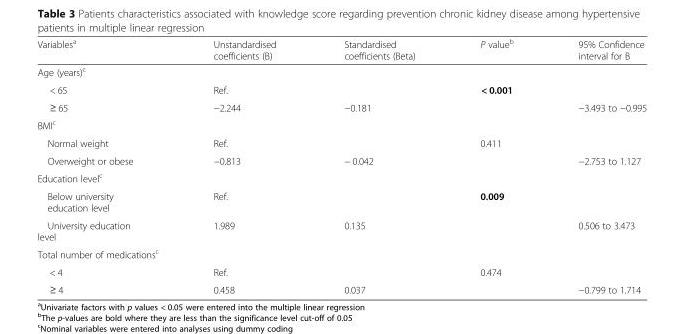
<table><thead><tr><td>Variables<sup>a</sup></td><td>Unstandardised coefficients (B)</td><td>Standardised coefficients (Beta)</td><td>P value<sup>b</sup></td><td>95% Confidence interval for B</td></tr></thead><tbody><tr><td colspan="5">Age (years)<sup>c</sup></td></tr><tr><td>&lt; 65</td><td>Ref.</td><td></td><td>&lt; 0.001</td><td></td></tr><tr><td>≥ 65</td><td>−2.244</td><td>−0.181</td><td></td><td>−3.493 to −0.995</td></tr><tr><td colspan="5">BMI<sup>c</sup></td></tr><tr><td>Normal weight</td><td>Ref.</td><td></td><td>0.411</td><td></td></tr><tr><td>Overweight or obese</td><td>−0.813</td><td>− 0.042</td><td></td><td>−2.753 to 1.127</td></tr><tr><td colspan="5">Education level<sup>c</sup></td></tr><tr><td>Below university education level</td><td>Ref.</td><td></td><td>0.009</td><td></td></tr><tr><td>University education level</td><td>1.989</td><td>0.135</td><td></td><td>0.506 to 3.473</td></tr><tr><td colspan="5">Total number of medications<sup>c</sup></td></tr><tr><td>&lt; 4</td><td>Ref.</td><td></td><td>0.474</td><td></td></tr><tr><td>≥ 4</td><td>0.458</td><td>0.037</td><td></td><td>−0.799 to 1.714</td></tr></tbody></table>